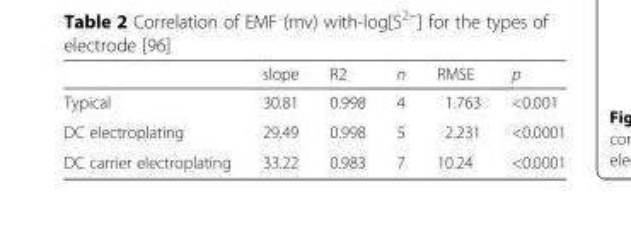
<table><thead><tr><td></td><td>slope</td><td>R2</td><td>n</td><td>RMSE</td><td>p</td></tr></thead><tbody><tr><td>Typical</td><td>30.81</td><td>0.998</td><td>4</td><td>1.763</td><td>&lt;0.001</td></tr><tr><td>DC electroplating</td><td>29.49</td><td>0.998</td><td>5</td><td>2.231</td><td>&lt;0.0001</td></tr><tr><td>DC carrier electroplating</td><td>33.22</td><td>0.983</td><td>7</td><td>10.24</td><td>&lt;0.0001</td></tr></tbody></table>